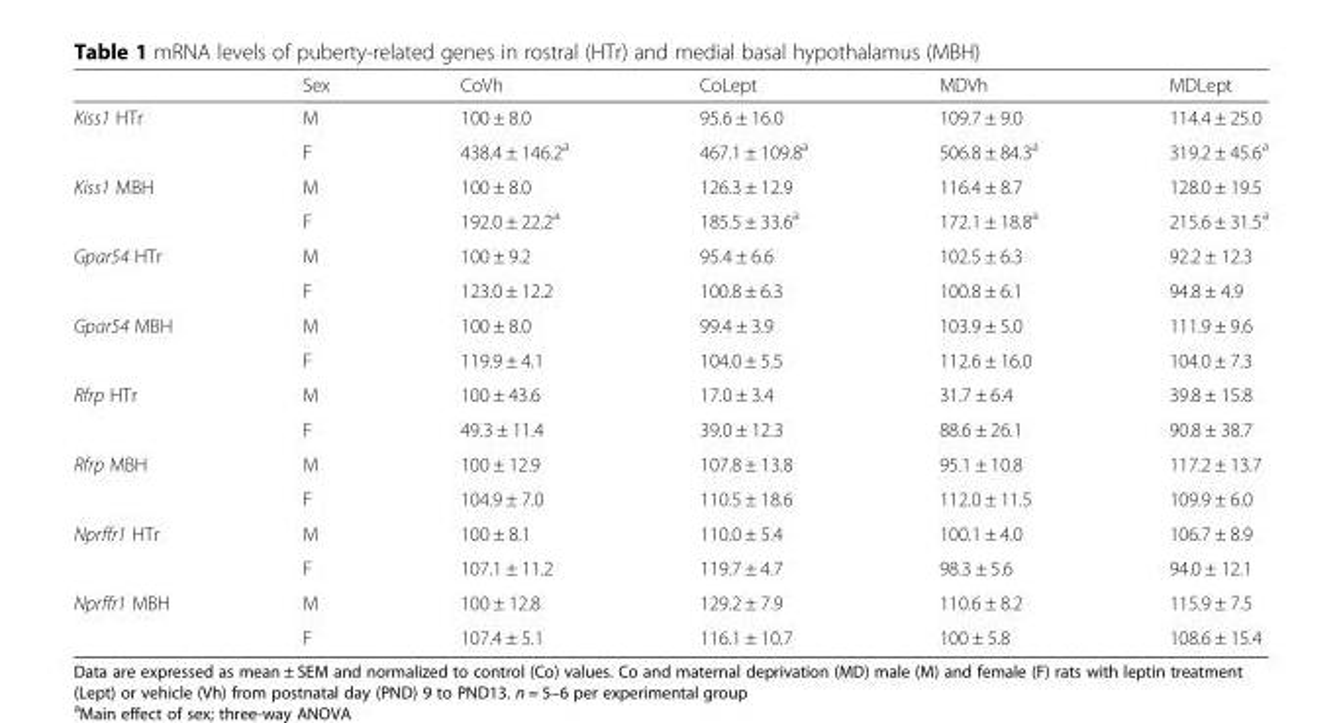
<table><thead><tr><td></td><td>Sex</td><td>CoVh</td><td>CoLept</td><td>MDVh</td><td>MDLept</td></tr></thead><tbody><tr><td rowspan="2">Kiss1 HTr</td><td>M</td><td>100 ± 8.0</td><td>95.6 ± 16.0</td><td>109.7 ± 9.0</td><td>114.4 ± 25.0</td></tr><tr><td>F</td><td>438.4 ± 146.2<sup>a</sup></td><td>467.1 ± 109.8<sup>a</sup></td><td>506.8 ± 84.3<sup>a</sup></td><td>319.2 ± 45.6<sup>a</sup></td></tr><tr><td rowspan="2">Kiss1 MBH</td><td>M</td><td>100 ± 8.0</td><td>126.3 ± 12.9</td><td>116.4 ± 8.7</td><td>128.0 ± 19.5</td></tr><tr><td>F</td><td>192.0 ± 22.2<sup>a</sup></td><td>185.5 ± 33.6<sup>a</sup></td><td>172.1 ± 18.8<sup>a</sup></td><td>215.6 ± 31.5<sup>a</sup></td></tr><tr><td rowspan="2">Gpar54 HTr</td><td>M</td><td>100 ± 9.2</td><td>95.4 ± 6.6</td><td>102.5 ± 6.3</td><td>92.2 ± 12.3</td></tr><tr><td>F</td><td>123.0 ± 12.2</td><td>100.8 ± 6.3</td><td>100.8 ± 6.1</td><td>94.8 ± 4.9</td></tr><tr><td rowspan="2">Gpar54 MBH</td><td>M</td><td>100 ± 8.0</td><td>99.4 ± 3.9</td><td>103.9 ± 5.0</td><td>111.9 ± 9.6</td></tr><tr><td>F</td><td>119.9 ± 4.1</td><td>104.0 ± 5.5</td><td>112.6 ± 16.0</td><td>104.0 ± 7.3</td></tr><tr><td rowspan="2">Rfrp HTr</td><td>M</td><td>100 ± 43.6</td><td>17.0 ± 3.4</td><td>31.7 ± 6.4</td><td>39.8 ± 15.8</td></tr><tr><td>F</td><td>49.3 ± 11.4</td><td>39.0 ± 12.3</td><td>88.6 ± 26.1</td><td>90.8 ± 38.7</td></tr><tr><td rowspan="2">Rfrp MBH</td><td>M</td><td>100 ± 12.9</td><td>107.8 ± 13.8</td><td>95.1 ± 10.8</td><td>117.2 ± 13.7</td></tr><tr><td>F</td><td>104.9 ± 7.0</td><td>110.5 ± 18.6</td><td>112.0 ± 11.5</td><td>109.9 ± 6.0</td></tr><tr><td rowspan="2">Nprffr1 HTr</td><td>M</td><td>100 ± 8.1</td><td>110.0 ± 5.4</td><td>100.1 ± 4.0</td><td>106.7 ± 8.9</td></tr><tr><td>F</td><td>107.1 ± 11.2</td><td>119.7 ± 4.7</td><td>98.3 ± 5.6</td><td>94.0 ± 12.1</td></tr><tr><td rowspan="2">Nprffr1 MBH</td><td>M</td><td>100 ± 12.8</td><td>129.2 ± 7.9</td><td>110.6 ± 8.2</td><td>115.9 ± 7.5</td></tr><tr><td>F</td><td>107.4 ± 5.1</td><td>116.1 ± 10.7</td><td>100 ± 5.8</td><td>108.6 ± 15.4</td></tr></tbody></table>